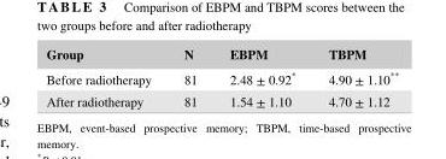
<table><thead><tr><td>Group</td><td>N</td><td>EBPM</td><td>TBPM</td></tr></thead><tbody><tr><td>Before radiotherapy</td><td>81</td><td>2.48 ± 0.92*</td><td>4.90 ± 1.10**</td></tr><tr><td>After radiotherapy</td><td>81</td><td>1.54 ± 1.10</td><td>4.70 ± 1.12</td></tr></tbody></table>